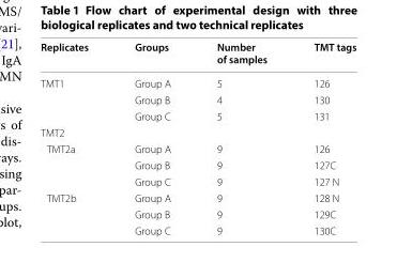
<table><thead><tr><td>Replicates</td><td>Groups</td><td>Number of samples</td><td>TMT tags</td></tr></thead><tbody><tr><td rowspan="3">TMT1</td><td>Group A</td><td>5</td><td>126</td></tr><tr><td>Group B</td><td>4</td><td>130</td></tr><tr><td>Group C</td><td>5</td><td>131</td></tr><tr><td colspan="4">TMT2</td></tr><tr><td rowspan="3">TMT2a</td><td>Group A</td><td>9</td><td>126</td></tr><tr><td>Group B</td><td>9</td><td>127C</td></tr><tr><td>Group C</td><td>9</td><td>127 N</td></tr><tr><td rowspan="3">TMT2b</td><td>Group A</td><td>9</td><td>128 N</td></tr><tr><td>Group B</td><td>9</td><td>129C</td></tr><tr><td>Group C</td><td>9</td><td>130C</td></tr></tbody></table>